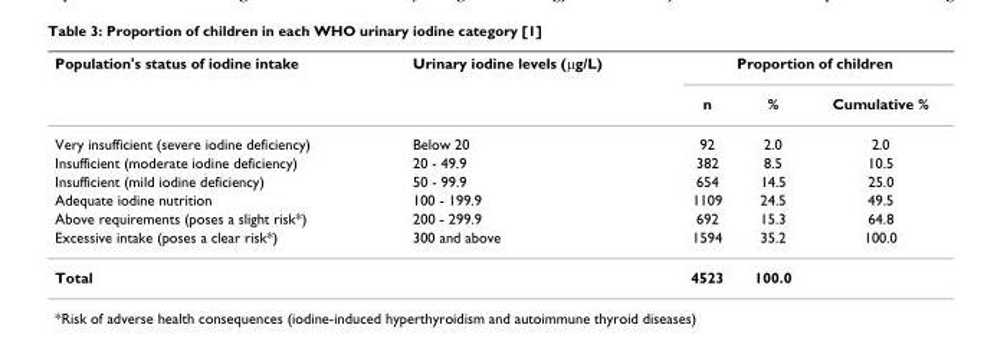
<table><thead><tr><td rowspan="2">Population&#x27;s status of iodine intake</td><td rowspan="2">Urinary iodine levels (μg/L)</td><td colspan="3">Proportion of children</td></tr><tr><td>n</td><td>%</td><td>Cumulative %</td></tr></thead><tbody><tr><td>Very insufficient (severe iodine deficiency)</td><td>Below 20</td><td>92</td><td>2.0</td><td>2.0</td></tr><tr><td>Insufficient (moderate iodine deficiency)</td><td>20 - 49.9</td><td>382</td><td>8.5</td><td>10.5</td></tr><tr><td>Insufficient (mild iodine deficiency)</td><td>50 - 99.9</td><td>654</td><td>14.5</td><td>25.0</td></tr><tr><td>Adequate iodine nutrition</td><td>100 - 199.9</td><td>1109</td><td>24.5</td><td>49.5</td></tr><tr><td>Above requirements (poses a slight risk*)</td><td>200 - 299.9</td><td>692</td><td>15.3</td><td>64.8</td></tr><tr><td>Excessive intake (poses a clear risk*)</td><td>300 and above</td><td>1594</td><td>35.2</td><td>100.0</td></tr><tr><td>Total</td><td></td><td>4523</td><td>100.0</td><td></td></tr></tbody></table>